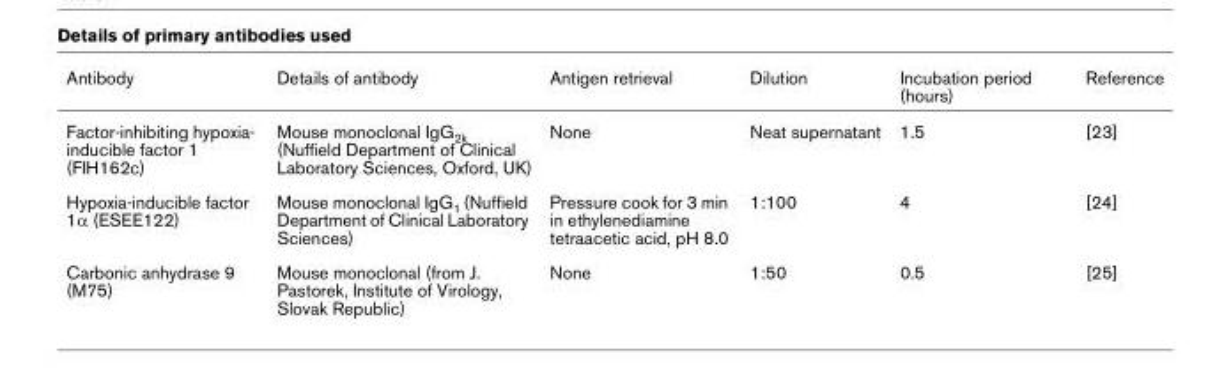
<table><thead><tr><td>Antibody</td><td>Details of antibody</td><td>Antigen retrieval</td><td>Dilution</td><td>Incubation period (hours)</td><td>Reference</td></tr></thead><tbody><tr><td>Factor-inhibiting hypoxia- inducible factor 1 (FIH162c)</td><td>Mouse monoclonal IgG<sub>2k</sub> (Nuffield Department of Clinical Laboratory Sciences, Oxford, UK)</td><td>None</td><td>Neat supernatant</td><td>1.5</td><td>[23]</td></tr><tr><td>Hypoxia-inducible factor 1α (ESEE122)</td><td>Mouse monoclonal IgG<sub>1</sub> (Nuffield Department of Clinical Laboratory Sciences)</td><td>Pressure cook for 3 min in ethylenediamine tetraacetic acid, pH 8.0</td><td>1:100</td><td>4</td><td>[24]</td></tr><tr><td>Carbonic anhydrase 9 (M75)</td><td>Mouse monoclonal (from J. Pastorek, Institute of Virology, Slovak Republic)</td><td>None</td><td>1:50</td><td>0.5</td><td>[25]</td></tr></tbody></table>